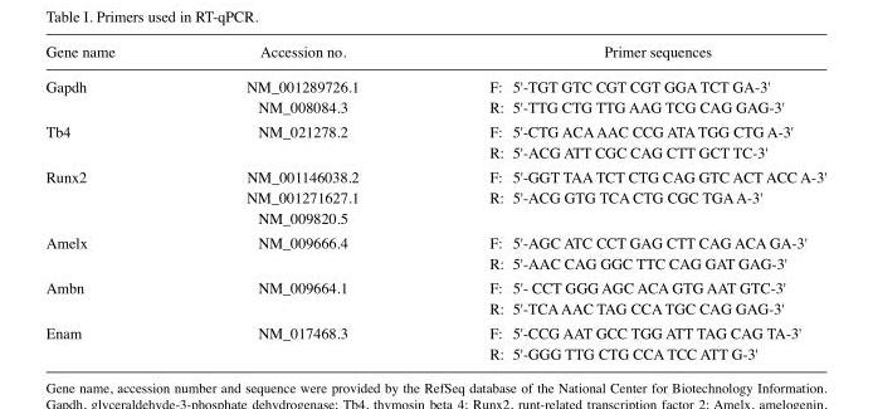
<table><thead><tr><td>Gene name</td><td>Accession no.</td><td>Primer sequences</td></tr></thead><tbody><tr><td rowspan="2">Gapdh</td><td>NM_001289726.1</td><td>F: 5&#x27;-TGT GTC CGT CGT GGA TCT GA-3&#x27;</td></tr><tr><td>NM_008084.3</td><td>R: 5&#x27;-TTG CTG TTG AAG TCG CAG GAG-3&#x27;</td></tr><tr><td rowspan="2">Tb4</td><td>NM_021278.2</td><td>F: 5&#x27;-CTG ACA AAC CCG ATA TGG CTG A-3&#x27;</td></tr><tr><td></td><td>R: 5&#x27;-ACG ATT CGC CAG CTT GCT TC-3&#x27;</td></tr><tr><td rowspan="3">Runx2</td><td>NM_001146038.2</td><td>F: 5&#x27;-GGT TAA TCT CTG CAG GTC ACT ACC A-3&#x27;</td></tr><tr><td>NM_001271627.1</td><td>R: 5&#x27;-ACG GTG TCA CTG CGC TGA A-3&#x27;</td></tr><tr><td>NM_009820.5</td><td></td></tr><tr><td rowspan="2">Amelx</td><td>NM_009666.4</td><td>F: 5&#x27;-AGC ATC CCT GAG CTT CAG ACA GA-3&#x27;</td></tr><tr><td></td><td>R: 5&#x27;-AAC CAG GGC TTC CAG GAT GAG-3&#x27;</td></tr><tr><td rowspan="2">Ambn</td><td>NM_009664.1</td><td>F: 5&#x27;- CCT GGG AGC ACA GTG AAT GTC-3&#x27;</td></tr><tr><td></td><td>R: 5&#x27;-TCA AAC TAG CCA TGC CAG GAG-3&#x27;</td></tr><tr><td rowspan="2">Enam</td><td>NM_017468.3</td><td>F: 5&#x27;-CCG AAT GCC TGG ATT TAG CAG TA-3&#x27;</td></tr><tr><td></td><td>R: 5&#x27;-GGG TTG CTG CCA TCC ATT G-3&#x27;</td></tr></tbody></table>